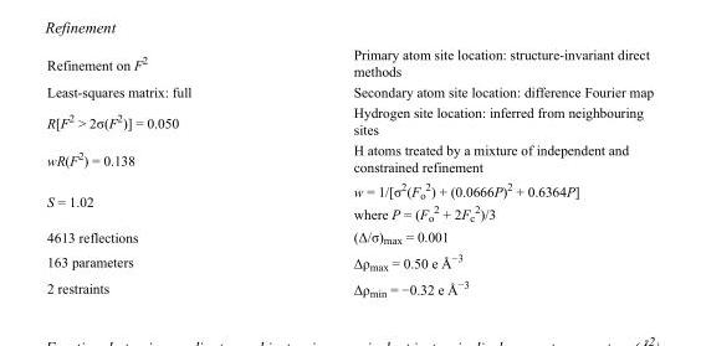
<table><tbody><tr><td>Refinement on F<sup>2</sup></td><td>Primary atom site location: structure-invariant direct methods</td></tr><tr><td>Least-squares matrix: full</td><td>Secondary atom site location: difference Fourier map</td></tr><tr><td>R[F<sup>2</sup> &gt; 2σ(F<sup>2</sup>)] = 0.050</td><td>Hydrogen site location: inferred from neighbouring sites</td></tr><tr><td>wR(F<sup>2</sup>) = 0.138</td><td>H atoms treated by a mixture of independent and constrained refinement</td></tr><tr><td>S = 1.02</td><td>w = 1/[σ<sup>2</sup>(F<sub>o</sub> <sup>2</sup>) + (0.0666P)<sup>2</sup> + 0.6364P] where P = (F<sub>o</sub> <sup>2</sup> + 2F<sub>c</sub> <sup>2</sup>)/3</td></tr><tr><td>4613 reflections</td><td>(Δ/σ)<sub>max</sub> = 0.001</td></tr><tr><td>163 parameters</td><td>Δρ<sub>max</sub> = 0.50 e Å<sup>−3</sup></td></tr><tr><td>2 restraints</td><td>Δρ<sub>min</sub> = −0.32 e Å<sup>−3</sup></td></tr></tbody></table>